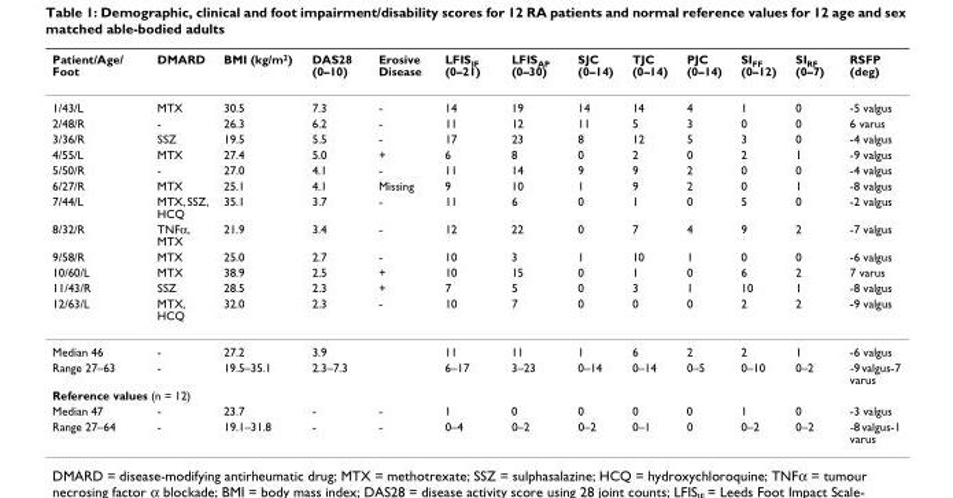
<table><thead><tr><td>Patient/Age/ Foot</td><td>DMARD</td><td>BMI (kg/m2)</td><td>DAS28 (0–10)</td><td>Erosive Disease</td><td>LFISIF (0–21)</td><td>LFISAP (0–30)</td><td>SJC (0–14)</td><td>TJC (0–14)</td><td>PJC (0–14)</td><td>SIFF (0–12)</td><td>SIRF (0–7)</td><td>RSFP (deg)</td></tr></thead><tbody><tr><td>1/43/L</td><td>MTX</td><td>30.5</td><td>7.3</td><td>-</td><td>14</td><td>19</td><td>14</td><td>14</td><td>4</td><td>1</td><td>0</td><td>-5 valgus</td></tr><tr><td>2/48/R</td><td>-</td><td>26.3</td><td>6.2</td><td>-</td><td>11</td><td>12</td><td>11</td><td>5</td><td>3</td><td>0</td><td>0</td><td>6 varus</td></tr><tr><td>3/36/R</td><td>SSZ</td><td>19.5</td><td>5.5</td><td>-</td><td>17</td><td>23</td><td>8</td><td>12</td><td>5</td><td>3</td><td>0</td><td>-4 valgus</td></tr><tr><td>4/55/L</td><td>MTX</td><td>27.4</td><td>5.0</td><td>+</td><td>6</td><td>8</td><td>0</td><td>2</td><td>0</td><td>2</td><td>1</td><td>-9 valgus</td></tr><tr><td>5/50/R</td><td>-</td><td>27.0</td><td>4.1</td><td>-</td><td>11</td><td>14</td><td>9</td><td>9</td><td>2</td><td>0</td><td>0</td><td>-4 valgus</td></tr><tr><td>6/27/R</td><td>MTX</td><td>25.1</td><td>4.1</td><td>Missing</td><td>9</td><td>10</td><td>1</td><td>9</td><td>2</td><td>0</td><td>1</td><td>-8 valgus</td></tr><tr><td>7/44/L</td><td>MTX, SSZ, HCQ</td><td>35.1</td><td>3.7</td><td>-</td><td>11</td><td>6</td><td>0</td><td>1</td><td>0</td><td>5</td><td>0</td><td>-2 valgus</td></tr><tr><td>8/32/R</td><td>TNFα, MTX</td><td>21.9</td><td>3.4</td><td>-</td><td>12</td><td>22</td><td>0</td><td>7</td><td>4</td><td>9</td><td>2</td><td>-7 valgus</td></tr><tr><td>9/58/R</td><td>MTX</td><td>25.0</td><td>2.7</td><td>-</td><td>10</td><td>3</td><td>1</td><td>10</td><td>1</td><td>0</td><td>0</td><td>-6 valgus</td></tr><tr><td>10/60/L</td><td>MTX</td><td>38.9</td><td>2.5</td><td>+</td><td>10</td><td>15</td><td>0</td><td>1</td><td>0</td><td>6</td><td>2</td><td>7 varus</td></tr><tr><td>11/43/R</td><td>SSZ</td><td>28.5</td><td>2.3</td><td>+</td><td>7</td><td>5</td><td>0</td><td>3</td><td>1</td><td>10</td><td>1</td><td>-8 valgus</td></tr><tr><td>12/63/L</td><td>MTX, HCQ</td><td>32.0</td><td>2.3</td><td>-</td><td>10</td><td>7</td><td>0</td><td>0</td><td>0</td><td>2</td><td>2</td><td>-9 valgus</td></tr><tr><td>Median 46</td><td>-</td><td>27.2</td><td>3.9</td><td></td><td>11</td><td>11</td><td>1</td><td>6</td><td>2</td><td>2</td><td>1</td><td>-6 valgus</td></tr><tr><td>Range 27–63</td><td>-</td><td>19.5–35.1</td><td>2.3–7.3</td><td></td><td>6–17</td><td>3–23</td><td>0–14</td><td>0–14</td><td>0–5</td><td>0–10</td><td>0–2</td><td>-9 valgus-7 varus</td></tr><tr><td colspan="13">Reference values (n = 12)</td></tr><tr><td>Median 47</td><td>-</td><td>23.7</td><td>-</td><td>-</td><td>1</td><td>0</td><td>0</td><td>0</td><td>0</td><td>1</td><td>0</td><td>-3 valgus</td></tr><tr><td>Range 27–64</td><td>-</td><td>19.1–31.8</td><td>-</td><td>-</td><td>0–4</td><td>0–2</td><td>0–2</td><td>0–1</td><td>0</td><td>0–2</td><td>0–2</td><td>-8 valgus-1 varus</td></tr></tbody></table>